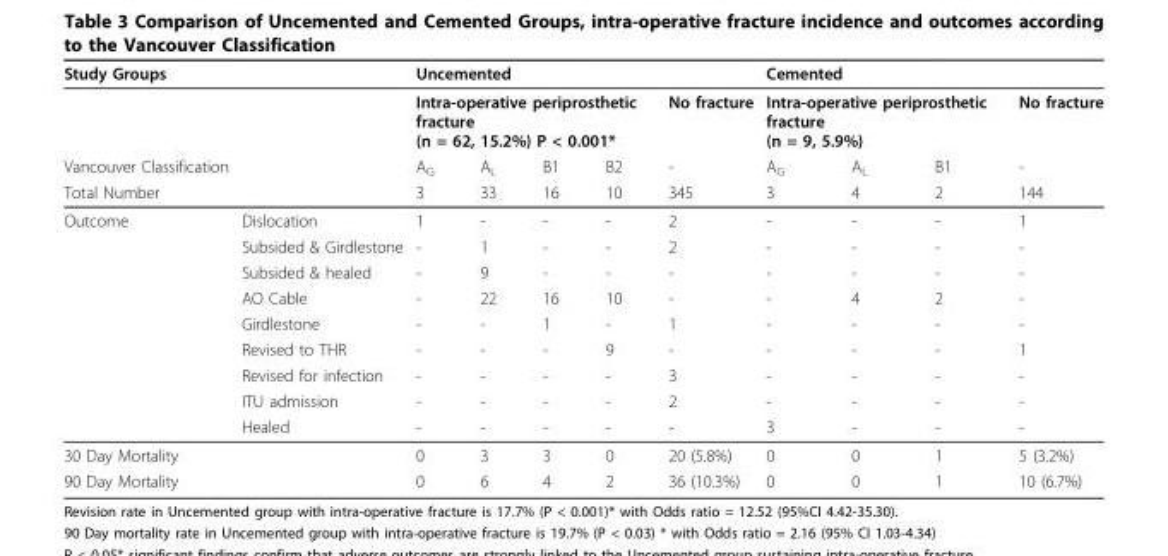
<table><thead><tr><td colspan="2">Study Groups</td><td colspan="5">Uncemented</td><td colspan="4">Cemented</td></tr><tr><td rowspan="2">Vancouver Classification</td><td rowspan="2"></td><td colspan="4">Intra-operative periprosthetic fracture (n = 62, 15.2%) P &lt; 0.001*</td><td rowspan="2">No fracture -</td><td colspan="3">Intra-operative periprosthetic fracture (n = 9, 5.9%)</td><td rowspan="2">No fracture -</td></tr><tr><td>A<sub>G</sub></td><td>A<sub>L</sub></td><td>B1</td><td>B2</td><td>A<sub>G</sub></td><td>A<sub>L</sub></td><td>B1</td></tr></thead><tbody><tr><td>Total Number</td><td></td><td>3</td><td>33</td><td>16</td><td>10</td><td>345</td><td>3</td><td>4</td><td>2</td><td>144</td></tr><tr><td rowspan="9">Outcome</td><td>Dislocation</td><td>1</td><td>-</td><td>-</td><td>-</td><td>2</td><td>-</td><td>-</td><td>-</td><td>1</td></tr><tr><td>Subsided &amp; Girdlestone</td><td>-</td><td>1</td><td>-</td><td>-</td><td>2</td><td>-</td><td>-</td><td>-</td><td>-</td></tr><tr><td>Subsided &amp; healed</td><td>-</td><td>9</td><td>-</td><td>-</td><td>-</td><td>-</td><td>-</td><td>-</td><td>-</td></tr><tr><td>AO Cable</td><td>-</td><td>22</td><td>16</td><td>10</td><td>-</td><td>-</td><td>4</td><td>2</td><td>-</td></tr><tr><td>Girdlestone</td><td>-</td><td>-</td><td>1</td><td>-</td><td>1</td><td>-</td><td>-</td><td>-</td><td>-</td></tr><tr><td>Revised to THR</td><td>-</td><td>-</td><td>-</td><td>9</td><td>-</td><td>-</td><td>-</td><td>-</td><td>1</td></tr><tr><td>Revised for infection</td><td>-</td><td>-</td><td>-</td><td>-</td><td>3</td><td>-</td><td>-</td><td>-</td><td>-</td></tr><tr><td>ITU admission</td><td>-</td><td>-</td><td>-</td><td>-</td><td>2</td><td>-</td><td>-</td><td>-</td><td>-</td></tr><tr><td>Healed</td><td>-</td><td>-</td><td>-</td><td>-</td><td>-</td><td>3</td><td>-</td><td>-</td><td>-</td></tr><tr><td>30 Day Mortality</td><td></td><td>0</td><td>3</td><td>3</td><td>0</td><td>20 (5.8%)</td><td>0</td><td>0</td><td>1</td><td>5 (3.2%)</td></tr><tr><td>90 Day Mortality</td><td></td><td>0</td><td>6</td><td>4</td><td>2</td><td>36 (10.3%)</td><td>0</td><td>0</td><td>1</td><td>10 (6.7%)</td></tr></tbody></table>